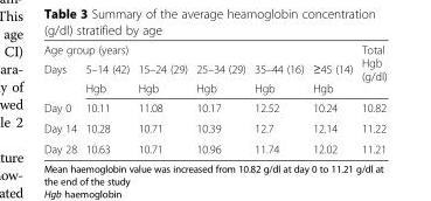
<table><thead><tr><td colspan="6">Age group (years)</td><td rowspan="3">Total Hgb (g/dl)</td></tr><tr><td rowspan="2">Days</td><td rowspan="2">5–14 (42) Hgb</td><td rowspan="2">15–24 (29) Hgb</td><td rowspan="2">25–34 (29) Hgb</td><td rowspan="2">35–44 (16) Hgb</td><td rowspan="2">≥45 (14) Hgb</td></tr><tr></tr></thead><tbody><tr><td>Day 0</td><td>10.11</td><td>11.08</td><td>10.17</td><td>12.52</td><td>10.24</td><td>10.82</td></tr><tr><td>Day 14</td><td>10.28</td><td>10.71</td><td>10.39</td><td>12.7</td><td>12.14</td><td>11.22</td></tr><tr><td>Day 28</td><td>10.63</td><td>10.71</td><td>10.96</td><td>11.74</td><td>12.02</td><td>11.21</td></tr></tbody></table>